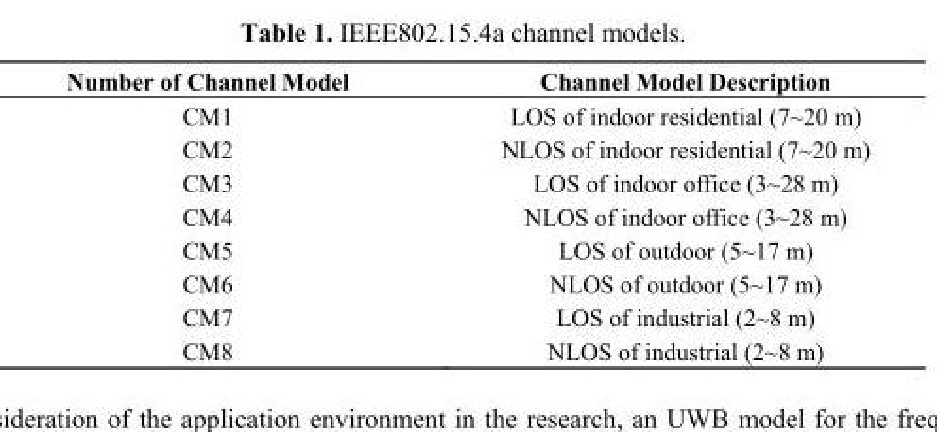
<table><thead><tr><td>Number of Channel Model</td><td>Channel Model Description</td></tr></thead><tbody><tr><td>CM1</td><td>LOS of indoor residential (7~20 m)</td></tr><tr><td>CM2</td><td>NLOS of indoor residential (7~20 m)</td></tr><tr><td>CM3</td><td>LOS of indoor office (3~28 m)</td></tr><tr><td>CM4</td><td>NLOS of indoor office (3~28 m)</td></tr><tr><td>CM5</td><td>LOS of outdoor (5~17 m)</td></tr><tr><td>CM6</td><td>NLOS of outdoor (5~17 m)</td></tr><tr><td>CM7</td><td>LOS of industrial (2~8 m)</td></tr><tr><td>CM8</td><td>NLOS of industrial (2~8 m)</td></tr></tbody></table>